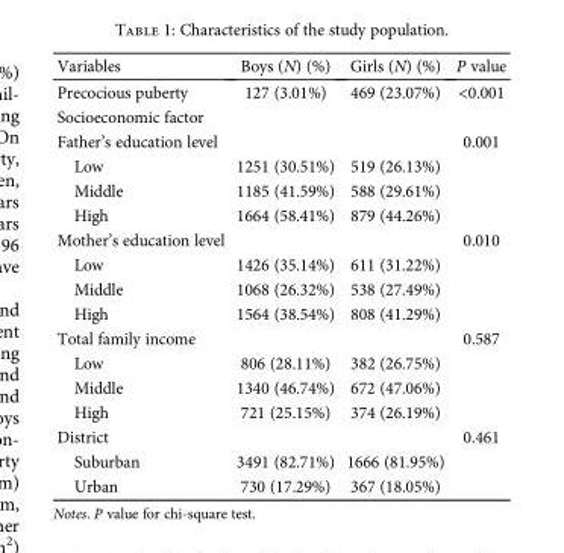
<table><thead><tr><td>Variables</td><td>Boys (N) (%)</td><td>Girls (N) (%)</td><td>P value</td></tr></thead><tbody><tr><td>Precocious puberty</td><td>127 (3.01%)</td><td>469 (23.07%)</td><td>&lt;0.001</td></tr><tr><td colspan="4">Socioeconomic factor</td></tr><tr><td>Father’s education level</td><td></td><td></td><td>0.001</td></tr><tr><td>Low</td><td>1251 (30.51%)</td><td>519 (26.13%)</td><td></td></tr><tr><td>Middle</td><td>1185 (41.59%)</td><td>588 (29.61%)</td><td></td></tr><tr><td>High</td><td>1664 (58.41%)</td><td>879 (44.26%)</td><td></td></tr><tr><td>Mother’s education level</td><td></td><td></td><td>0.010</td></tr><tr><td>Low</td><td>1426 (35.14%)</td><td>611 (31.22%)</td><td></td></tr><tr><td>Middle</td><td>1068 (26.32%)</td><td>538 (27.49%)</td><td></td></tr><tr><td>High</td><td>1564 (38.54%)</td><td>808 (41.29%)</td><td></td></tr><tr><td>Total family income</td><td></td><td></td><td>0.587</td></tr><tr><td>Low</td><td>806 (28.11%)</td><td>382 (26.75%)</td><td></td></tr><tr><td>Middle</td><td>1340 (46.74%)</td><td>672 (47.06%)</td><td></td></tr><tr><td>High</td><td>721 (25.15%)</td><td>374 (26.19%)</td><td></td></tr><tr><td>District</td><td></td><td></td><td>0.461</td></tr><tr><td>Suburban</td><td>3491 (82.71%)</td><td>1666 (81.95%)</td><td></td></tr><tr><td>Urban</td><td>730 (17.29%)</td><td>367 (18.05%)</td><td></td></tr></tbody></table>